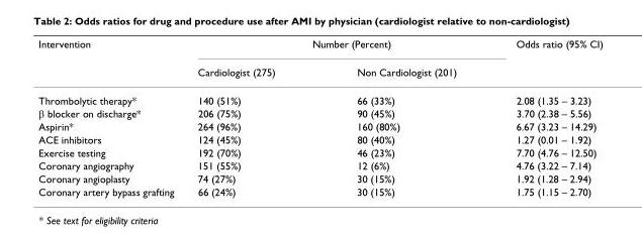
<table><thead><tr><td rowspan="2">Intervention</td><td colspan="2">Number (Percent)</td><td rowspan="2">Odds ratio (95% CI)</td></tr><tr><td>Cardiologist (275)</td><td>Non Cardiologist (201)</td></tr></thead><tbody><tr><td>Thrombolytic therapy*</td><td>140 (51%)</td><td>66 (33%)</td><td>2.08 (1.35 – 3.23)</td></tr><tr><td>β blocker on discharge*</td><td>206 (75%)</td><td>90 (45%)</td><td>3.70 (2.38 – 5.56)</td></tr><tr><td>Aspirin*</td><td>264 (96%)</td><td>160 (80%)</td><td>6.67 (3.23 – 14.29)</td></tr><tr><td>ACE inhibitors</td><td>124 (45%)</td><td>80 (40%)</td><td>1.27 (0.01 – 1.92)</td></tr><tr><td>Exercise testing</td><td>192 (70%)</td><td>46 (23%)</td><td>7.70 (4.76 – 12.50)</td></tr><tr><td>Coronary angiography</td><td>151 (55%)</td><td>12 (6%)</td><td>4.76 (3.22 – 7.14)</td></tr><tr><td>Coronary angioplasty</td><td>74 (27%)</td><td>30 (15%)</td><td>1.92 (1.28 – 2.94)</td></tr><tr><td>Coronary artery bypass grafting</td><td>66 (24%)</td><td>30 (15%)</td><td>1.75 (1.15 – 2.70)</td></tr></tbody></table>